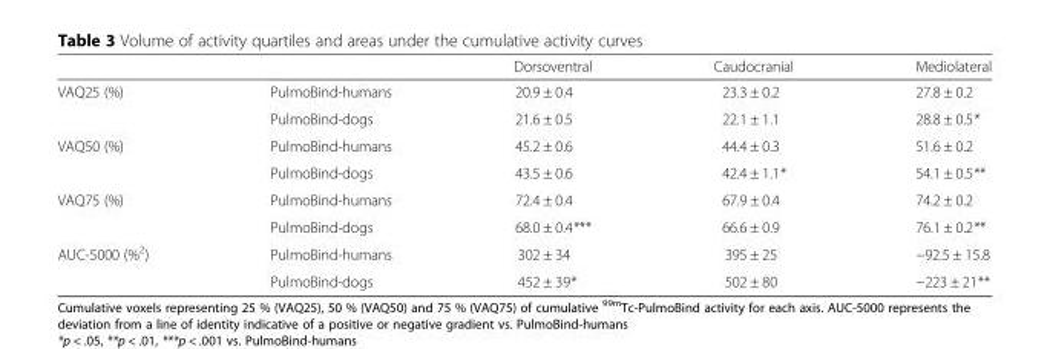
<table><thead><tr><td></td><td></td><td>Dorsoventral</td><td>Caudocranial</td><td>Mediolateral</td></tr></thead><tbody><tr><td rowspan="2">VAQ25 (%)</td><td>PulmoBind-humans</td><td>20.9 ± 0.4</td><td>23.3 ± 0.2</td><td>27.8 ± 0.2</td></tr><tr><td>PulmoBind-dogs</td><td>21.6 ± 0.5</td><td>22.1 ± 1.1</td><td>28.8 ± 0.5*</td></tr><tr><td rowspan="2">VAQ50 (%)</td><td>PulmoBind-humans</td><td>45.2 ± 0.6</td><td>44.4 ± 0.3</td><td>51.6 ± 0.2</td></tr><tr><td>PulmoBind-dogs</td><td>43.5 ± 0.6</td><td>42.4 ± 1.1*</td><td>54.1 ± 0.5**</td></tr><tr><td rowspan="2">VAQ75 (%)</td><td>PulmoBind-humans</td><td>72.4 ± 0.4</td><td>67.9 ± 0.4</td><td>74.2 ± 0.2</td></tr><tr><td>PulmoBind-dogs</td><td>68.0 ± 0.4***</td><td>66.6 ± 0.9</td><td>76.1 ± 0.2**</td></tr><tr><td rowspan="2">AUC-5000 (%<sup>2</sup>)</td><td>PulmoBind-humans</td><td>302 ± 34</td><td>395 ± 25</td><td>−92.5 ± 15.8</td></tr><tr><td>PulmoBind-dogs</td><td>452 ± 39*</td><td>502 ± 80</td><td>−223 ± 21**</td></tr></tbody></table>